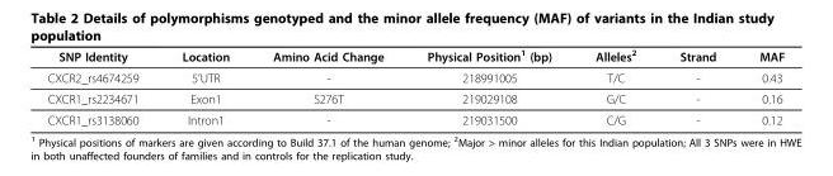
<table><thead><tr><td>SNP Identity</td><td>Location</td><td>Amino Acid Change</td><td>Physical Position<sup>1</sup> (bp)</td><td>Alleles<sup>2</sup></td><td>Strand</td><td>MAF</td></tr></thead><tbody><tr><td>CXCR2_rs4674259</td><td>5’UTR</td><td>-</td><td>218991005</td><td>T/C</td><td>-</td><td>0.43</td></tr><tr><td>CXCR1_rs2234671</td><td>Exon1</td><td>S276T</td><td>219029108</td><td>G/C</td><td>-</td><td>0.16</td></tr><tr><td>CXCR1_rs3138060</td><td>Intron1</td><td>-</td><td>219031500</td><td>C/G</td><td>-</td><td>0.12</td></tr></tbody></table>